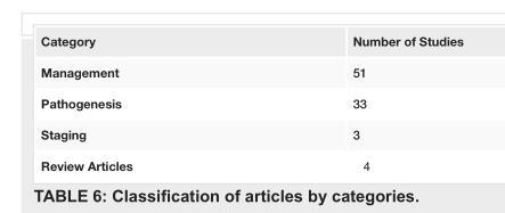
<table><tbody><tr><td>Category</td><td>Number of Studies</td></tr><tr><td>Management</td><td>51</td></tr><tr><td>Pathogenesis</td><td>33</td></tr><tr><td>Staging</td><td>3</td></tr><tr><td>Review Articles</td><td>4</td></tr></tbody></table>